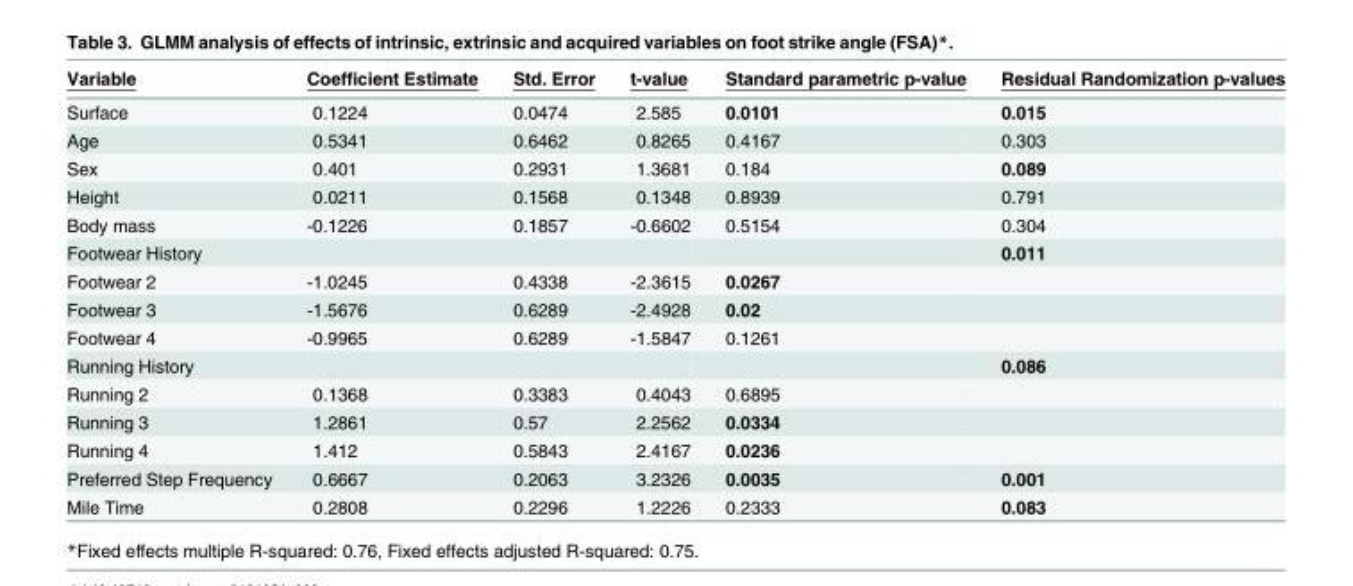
<table><thead><tr><td>Variable</td><td>Coefficient Estimate</td><td>Std. Error</td><td>t-value</td><td>Standard parametric p-value</td><td>Residual Randomization p-values</td></tr></thead><tbody><tr><td>Surface</td><td>0.1224</td><td>0.0474</td><td>2.585</td><td>0.0101</td><td>0.015</td></tr><tr><td>Age</td><td>0.5341</td><td>0.6462</td><td>0.8265</td><td>0.4167</td><td>0.303</td></tr><tr><td>Sex</td><td>0.401</td><td>0.2931</td><td>1.3681</td><td>0.184</td><td>0.089</td></tr><tr><td>Height</td><td>0.0211</td><td>0.1568</td><td>0.1348</td><td>0.8939</td><td>0.791</td></tr><tr><td>Body mass</td><td>-0.1226</td><td>0.1857</td><td>-0.6602</td><td>0.5154</td><td>0.304</td></tr><tr><td>Footwear History</td><td></td><td></td><td></td><td></td><td>0.011</td></tr><tr><td>Footwear 2</td><td>-1.0245</td><td>0.4338</td><td>-2.3615</td><td>0.0267</td><td></td></tr><tr><td>Footwear 3</td><td>-1.5676</td><td>0.6289</td><td>-2.4928</td><td>0.02</td><td></td></tr><tr><td>Footwear 4</td><td>-0.9965</td><td>0.6289</td><td>-1.5847</td><td>0.1261</td><td></td></tr><tr><td>Running History</td><td></td><td></td><td></td><td></td><td>0.086</td></tr><tr><td>Running 2</td><td>0.1368</td><td>0.3383</td><td>0.4043</td><td>0.6895</td><td></td></tr><tr><td>Running 3</td><td>1.2861</td><td>0.57</td><td>2.2562</td><td>0.0334</td><td></td></tr><tr><td>Running 4</td><td>1.412</td><td>0.5843</td><td>2.4167</td><td>0.0236</td><td></td></tr><tr><td>Preferred Step Frequency</td><td>0.6667</td><td>0.2063</td><td>3.2326</td><td>0.0035</td><td>0.001</td></tr><tr><td>Mile Time</td><td>0.2808</td><td>0.2296</td><td>1.2226</td><td>0.2333</td><td>0.083</td></tr></tbody></table>